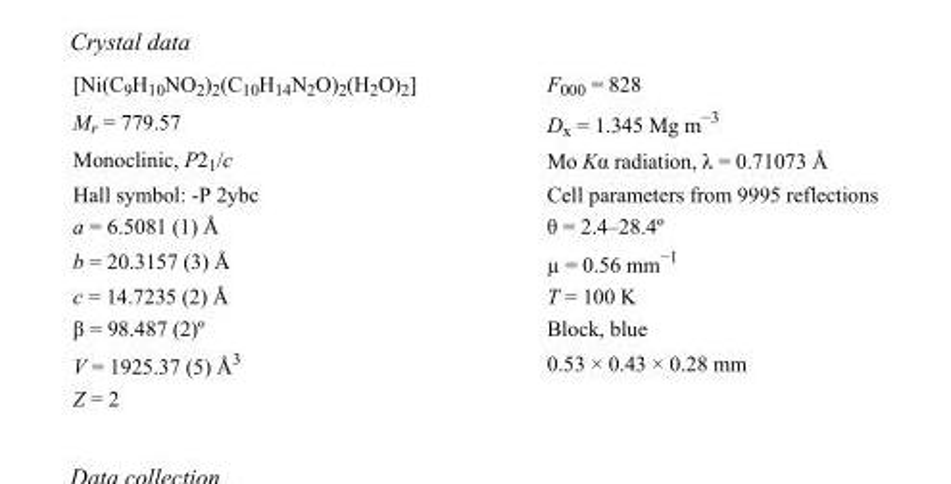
<table><tbody><tr><td>[Ni(C<sub>9</sub>H<sub>10</sub>NO<sub>2</sub>)<sub>2</sub>(C<sub>10</sub>H<sub>14</sub>N<sub>2</sub>O)<sub>2</sub>(H<sub>2</sub>O)<sub>2</sub>]</td><td>F000 = 828</td></tr><tr><td>M<sub>r</sub> = 779.57</td><td>D<sub>x</sub> = 1.345 Mg m<sup>−3</sup></td></tr><tr><td>Monoclinic, P2<sub>1</sub>/c</td><td>Mo Kα radiation, λ = 0.71073 Å</td></tr><tr><td>Hall symbol: -P 2ybc</td><td>Cell parameters from 9995 reflections</td></tr><tr><td>a = 6.5081 (1) Å</td><td>θ = 2.4–28.4º</td></tr><tr><td>b = 20.3157 (3) Å</td><td>µ = 0.56 mm<sup>−1</sup></td></tr><tr><td>c = 14.7235 (2) Å</td><td>T = 100 K</td></tr><tr><td>β = 98.487 (2)º</td><td>Block, blue</td></tr><tr><td>V = 1925.37 (5) Å<sup>3</sup></td><td>0.53 × 0.43 × 0.28 mm</td></tr><tr><td>Z = 2</td><td></td></tr></tbody></table>